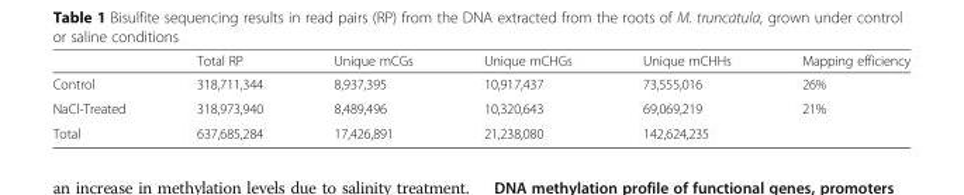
<table><thead><tr><td></td><td>Total RP</td><td>Unique mCGs</td><td>Unique mCHGs</td><td>Unique mCHHs</td><td>Mapping efficiency</td></tr></thead><tbody><tr><td>Control</td><td>318,711,344</td><td>8,937,395</td><td>10,917,437</td><td>73,555,016</td><td>26%</td></tr><tr><td>NaCl-Treated</td><td>318,973,940</td><td>8,489,496</td><td>10,320,643</td><td>69,069,219</td><td>21%</td></tr><tr><td>Total</td><td>637,685,284</td><td>17,426,891</td><td>21,238,080</td><td>142,624,235</td><td></td></tr></tbody></table>